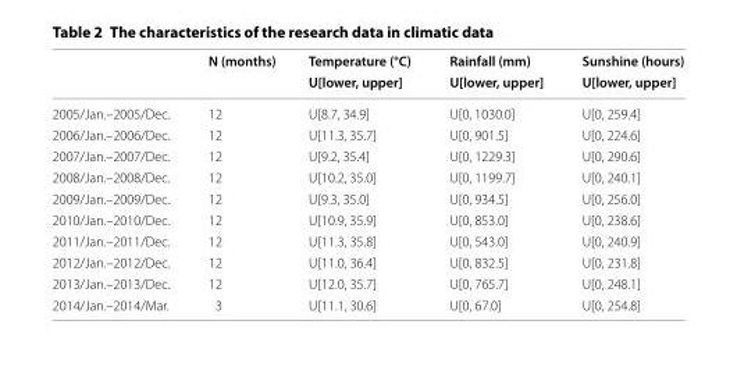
<table><thead><tr><td rowspan="2"></td><td rowspan="2">N (months)</td><td rowspan="2">Temperature (°C) U[lower, upper]</td><td rowspan="2">Rainfall (mm) U[lower, upper]</td><td rowspan="2">Sunshine (hours) U[lower, upper]</td></tr><tr></tr></thead><tbody><tr><td>2005/Jan.–2005/Dec.</td><td>12</td><td>U[8.7, 34.9]</td><td>U[0, 1030.0]</td><td>U[0, 259.4]</td></tr><tr><td>2006/Jan.–2006/Dec.</td><td>12</td><td>U[11.3, 35.7]</td><td>U[0, 901.5]</td><td>U[0, 224.6]</td></tr><tr><td>2007/Jan.–2007/Dec.</td><td>12</td><td>U[9.2, 35.4]</td><td>U[0, 1229.3]</td><td>U[0, 290.6]</td></tr><tr><td>2008/Jan.–2008/Dec.</td><td>12</td><td>U[10.2, 35.0]</td><td>U[0, 1199.7]</td><td>U[0, 240.1]</td></tr><tr><td>2009/Jan.–2009/Dec.</td><td>12</td><td>U[9.3, 35.0]</td><td>U[0, 934.5]</td><td>U[0, 256.0]</td></tr><tr><td>2010/Jan.–2010/Dec.</td><td>12</td><td>U[10.9, 35.9]</td><td>U[0, 853.0]</td><td>U[0, 238.6]</td></tr><tr><td>2011/Jan.–2011/Dec.</td><td>12</td><td>U[11.3, 35.8]</td><td>U[0, 543.0]</td><td>U[0, 240.9]</td></tr><tr><td>2012/Jan.–2012/Dec.</td><td>12</td><td>U[11.0, 36.4]</td><td>U[0, 832.5]</td><td>U[0, 231.8]</td></tr><tr><td>2013/Jan.–2013/Dec.</td><td>12</td><td>U[12.0, 35.7]</td><td>U[0, 765.7]</td><td>U[0, 248.1]</td></tr><tr><td>2014/Jan.–2014/Mar.</td><td>3</td><td>U[11.1, 30.6]</td><td>U[0, 67.0]</td><td>U[0, 254.8]</td></tr></tbody></table>